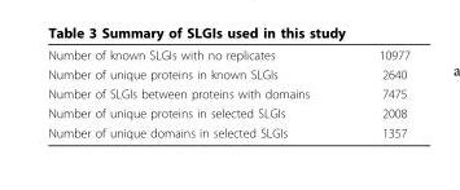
<table><tbody><tr><td>Number of known SLGIs with no replicates</td><td>10977</td></tr><tr><td>Number of unique proteins in known SLGIs</td><td>2640</td></tr><tr><td>Number of SLGIs between proteins with domains</td><td>7475</td></tr><tr><td>Number of unique proteins in selected SLGIs</td><td>2008</td></tr><tr><td>Number of unique domains in selected SLGIs</td><td>1357</td></tr></tbody></table>